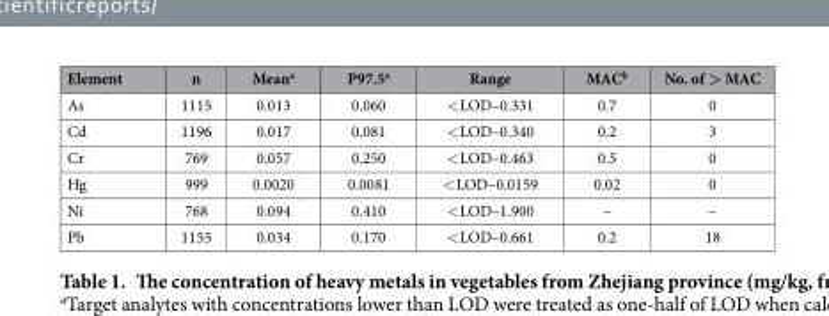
<table><thead><tr><td>Element</td><td>n</td><td>Mean<sup>a</sup></td><td>P97.5<sup>a</sup></td><td>Range</td><td>MAC<sup>b</sup></td><td>No. of &gt; MAC</td></tr></thead><tbody><tr><td>As</td><td>1115</td><td>0.013</td><td>0.060</td><td>&lt; LOD–0.331</td><td>0.7</td><td>0</td></tr><tr><td>Cd</td><td>1196</td><td>0.017</td><td>0.081</td><td>&lt; LOD–0.340</td><td>0.2</td><td>3</td></tr><tr><td>Cr</td><td>769</td><td>0.057</td><td>0.250</td><td>&lt; LOD–0.463</td><td>0.5</td><td>0</td></tr><tr><td>Hg</td><td>999</td><td>0.0020</td><td>0.0081</td><td>&lt; LOD–0.0159</td><td>0.02</td><td>0</td></tr><tr><td>Ni</td><td>768</td><td>0.094</td><td>0.410</td><td>&lt; LOD–1.900</td><td>–</td><td>–</td></tr><tr><td>Pb</td><td>1155</td><td>0.034</td><td>0.170</td><td>&lt; LOD–0.661</td><td>0.2</td><td>18</td></tr></tbody></table>